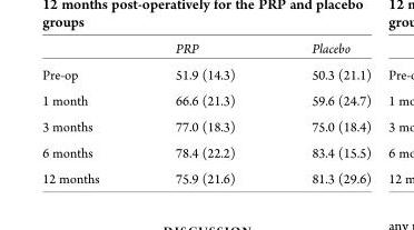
<table><thead><tr><td></td><td>PRP</td><td>Placebo</td></tr></thead><tbody><tr><td>Pre-op</td><td>51.9 (14.3)</td><td>50.3 (21.1)</td></tr><tr><td>1 month</td><td>66.6 (21.3)</td><td>59.6 (24.7)</td></tr><tr><td>3 months</td><td>77.0 (18.3)</td><td>75.0 (18.4)</td></tr><tr><td>6 months</td><td>78.4 (22.2)</td><td>83.4 (15.5)</td></tr><tr><td>12 months</td><td>75.9 (21.6)</td><td>81.3 (29.6)</td></tr></tbody></table>